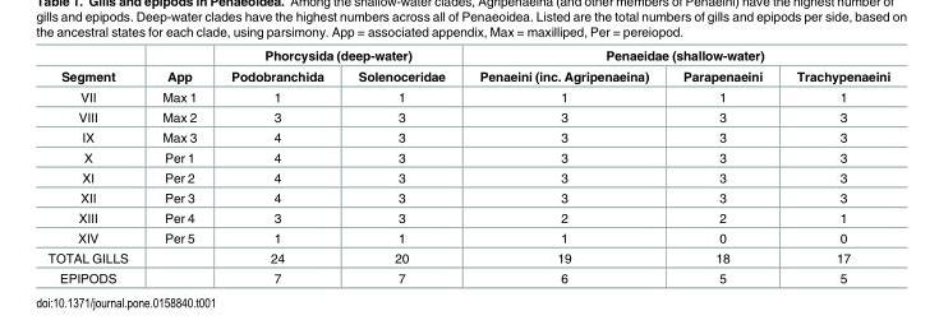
<table><thead><tr><td rowspan="2">Segment</td><td rowspan="2">App</td><td colspan="2">Phorcysida (deep-water)</td><td colspan="3">Penaeidae (shallow-water)</td></tr><tr><td>Podobranchida</td><td>Solenoceridae</td><td>Penaeini (inc. Agripenaeina)</td><td>Parapenaeini</td><td>Trachypenaeini</td></tr></thead><tbody><tr><td>VII</td><td>Max 1</td><td>1</td><td>1</td><td>1</td><td>1</td><td>1</td></tr><tr><td>VIII</td><td>Max 2</td><td>3</td><td>3</td><td>3</td><td>3</td><td>3</td></tr><tr><td>IX</td><td>Max 3</td><td>4</td><td>3</td><td>3</td><td>3</td><td>3</td></tr><tr><td>X</td><td>Per 1</td><td>4</td><td>3</td><td>3</td><td>3</td><td>3</td></tr><tr><td>XI</td><td>Per 2</td><td>4</td><td>3</td><td>3</td><td>3</td><td>3</td></tr><tr><td>XII</td><td>Per 3</td><td>4</td><td>3</td><td>3</td><td>3</td><td>3</td></tr><tr><td>XIII</td><td>Per 4</td><td>3</td><td>3</td><td>2</td><td>2</td><td>1</td></tr><tr><td>XIV</td><td>Per 5</td><td>1</td><td>1</td><td>1</td><td>0</td><td>0</td></tr><tr><td>TOTAL GILLS</td><td></td><td>24</td><td>20</td><td>19</td><td>18</td><td>17</td></tr><tr><td>EPIPODS</td><td></td><td>7</td><td>7</td><td>6</td><td>5</td><td>5</td></tr></tbody></table>